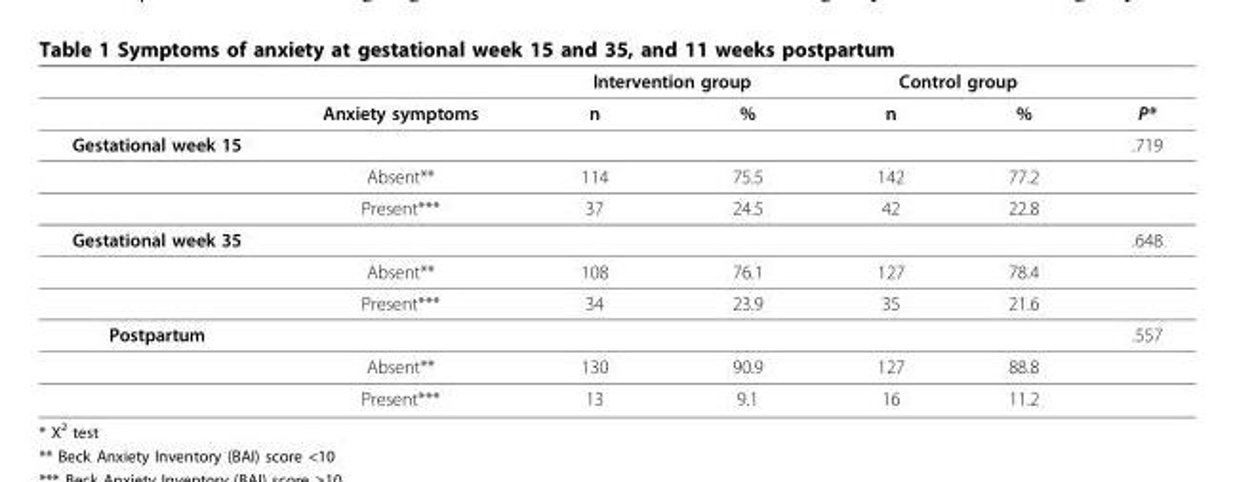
<table><thead><tr><td rowspan="2"></td><td rowspan="2">Anxiety symptoms</td><td colspan="2">Intervention group</td><td colspan="2">Control group</td><td rowspan="2">P*</td></tr><tr><td>n</td><td>%</td><td>n</td><td>%</td></tr></thead><tbody><tr><td rowspan="3">Gestational week 15</td><td></td><td></td><td></td><td></td><td></td><td>.719</td></tr><tr><td>Absent**</td><td>114</td><td>75.5</td><td>142</td><td>77.2</td><td></td></tr><tr><td>Present***</td><td>37</td><td>24.5</td><td>42</td><td>22.8</td><td></td></tr><tr><td rowspan="3">Gestational week 35</td><td></td><td></td><td></td><td></td><td></td><td>.648</td></tr><tr><td>Absent**</td><td>108</td><td>76.1</td><td>127</td><td>78.4</td><td></td></tr><tr><td>Present***</td><td>34</td><td>23.9</td><td>35</td><td>21.6</td><td></td></tr><tr><td rowspan="3">Postpartum</td><td></td><td></td><td></td><td></td><td></td><td>.557</td></tr><tr><td>Absent**</td><td>130</td><td>90.9</td><td>127</td><td>88.8</td><td></td></tr><tr><td>Present***</td><td>13</td><td>9.1</td><td>16</td><td>11.2</td><td></td></tr></tbody></table>